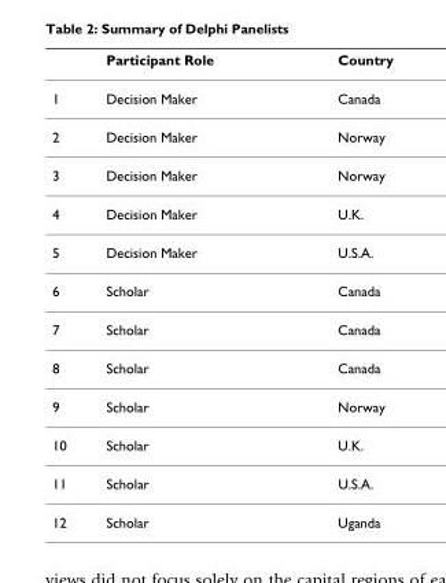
<table><thead><tr><td></td><td>Participant Role</td><td>Country</td></tr></thead><tbody><tr><td>1</td><td>Decision Maker</td><td>Canada</td></tr><tr><td>2</td><td>Decision Maker</td><td>Norway</td></tr><tr><td>3</td><td>Decision Maker</td><td>Norway</td></tr><tr><td>4</td><td>Decision Maker</td><td>U.K.</td></tr><tr><td>5</td><td>Decision Maker</td><td>U.S.A.</td></tr><tr><td>6</td><td>Scholar</td><td>Canada</td></tr><tr><td>7</td><td>Scholar</td><td>Canada</td></tr><tr><td>8</td><td>Scholar</td><td>Canada</td></tr><tr><td>9</td><td>Scholar</td><td>Norway</td></tr><tr><td>10</td><td>Scholar</td><td>U.K.</td></tr><tr><td>11</td><td>Scholar</td><td>U.S.A.</td></tr><tr><td>12</td><td>Scholar</td><td>Uganda</td></tr></tbody></table>